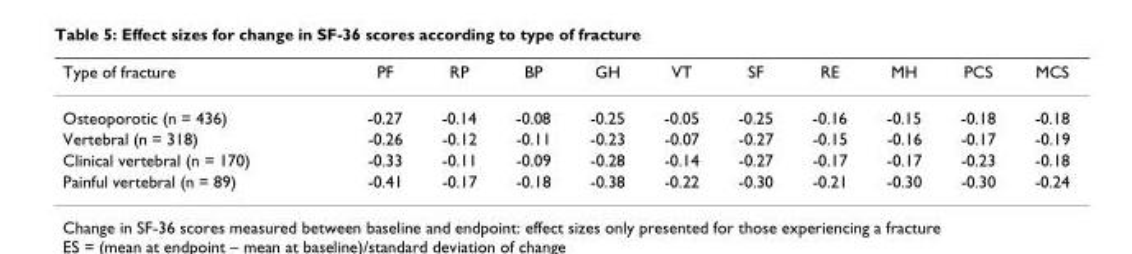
<table><thead><tr><td>Type of fracture</td><td>PF</td><td>RP</td><td>BP</td><td>GH</td><td>VT</td><td>SF</td><td>RE</td><td>MH</td><td>PCS</td><td>MCS</td></tr></thead><tbody><tr><td>Osteoporotic (n = 436)</td><td>-0.27</td><td>-0.14</td><td>-0.08</td><td>-0.25</td><td>-0.05</td><td>-0.25</td><td>-0.16</td><td>-0.15</td><td>-0.18</td><td>-0.18</td></tr><tr><td>Vertebral (n = 318)</td><td>-0.26</td><td>-0.12</td><td>-0.11</td><td>-0.23</td><td>-0.07</td><td>-0.27</td><td>-0.15</td><td>-0.16</td><td>-0.17</td><td>-0.19</td></tr><tr><td>Clinical vertebral (n = 170)</td><td>-0.33</td><td>-0.11</td><td>-0.09</td><td>-0.28</td><td>-0.14</td><td>-0.27</td><td>-0.17</td><td>-0.17</td><td>-0.23</td><td>-0.18</td></tr><tr><td>Painful vertebral (n = 89)</td><td>-0.41</td><td>-0.17</td><td>-0.18</td><td>-0.38</td><td>-0.22</td><td>-0.30</td><td>-0.21</td><td>-0.30</td><td>-0.30</td><td>-0.24</td></tr></tbody></table>